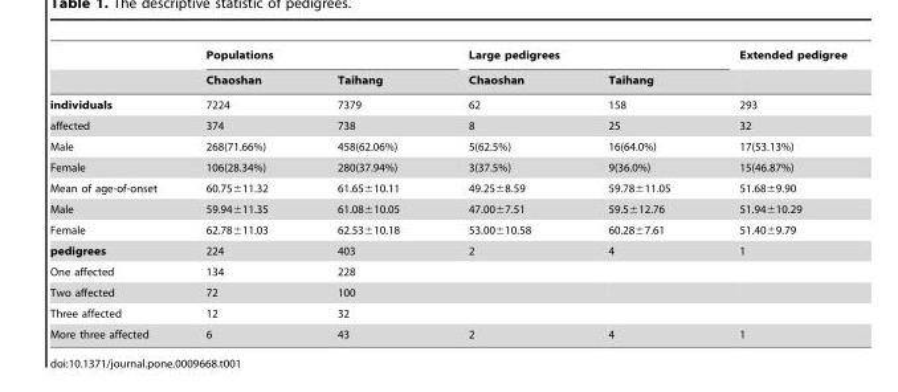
<table><thead><tr><td rowspan="2"></td><td colspan="2">Populations</td><td colspan="2">Large pedigrees</td><td rowspan="2">Extended pedigree</td></tr><tr><td>Chaoshan</td><td>Taihang</td><td>Chaoshan</td><td>Taihang</td></tr></thead><tbody><tr><td>individuals</td><td>7224</td><td>7379</td><td>62</td><td>158</td><td>293</td></tr><tr><td>affected</td><td>374</td><td>738</td><td>8</td><td>25</td><td>32</td></tr><tr><td>Male</td><td>268(71.66%)</td><td>458(62.06%)</td><td>5(62.5%)</td><td>16(64.0%)</td><td>17(53.13%)</td></tr><tr><td>Female</td><td>106(28.34%)</td><td>280(37.94%)</td><td>3(37.5%)</td><td>9(36.0%)</td><td>15(46.87%)</td></tr><tr><td>Mean of age-of-onset</td><td>60.75±11.32</td><td>61.65±10.11</td><td>49.25±8.59</td><td>59.78±11.05</td><td>51.68±9.90</td></tr><tr><td>Male</td><td>59.94±11.35</td><td>61.08±10.05</td><td>47.00±7.51</td><td>59.5±12.76</td><td>51.94±10.29</td></tr><tr><td>Female</td><td>62.78±11.03</td><td>62.53±10.18</td><td>53.00±10.58</td><td>60.28±7.61</td><td>51.40±9.79</td></tr><tr><td>pedigrees</td><td>224</td><td>403</td><td>2</td><td>4</td><td>1</td></tr><tr><td>One affected</td><td>134</td><td>228</td><td></td><td></td><td></td></tr><tr><td>Two affected</td><td>72</td><td>100</td><td></td><td></td><td></td></tr><tr><td>Three affected</td><td>12</td><td>32</td><td></td><td></td><td></td></tr><tr><td>More three affected</td><td>6</td><td>43</td><td>2</td><td>4</td><td>1</td></tr></tbody></table>